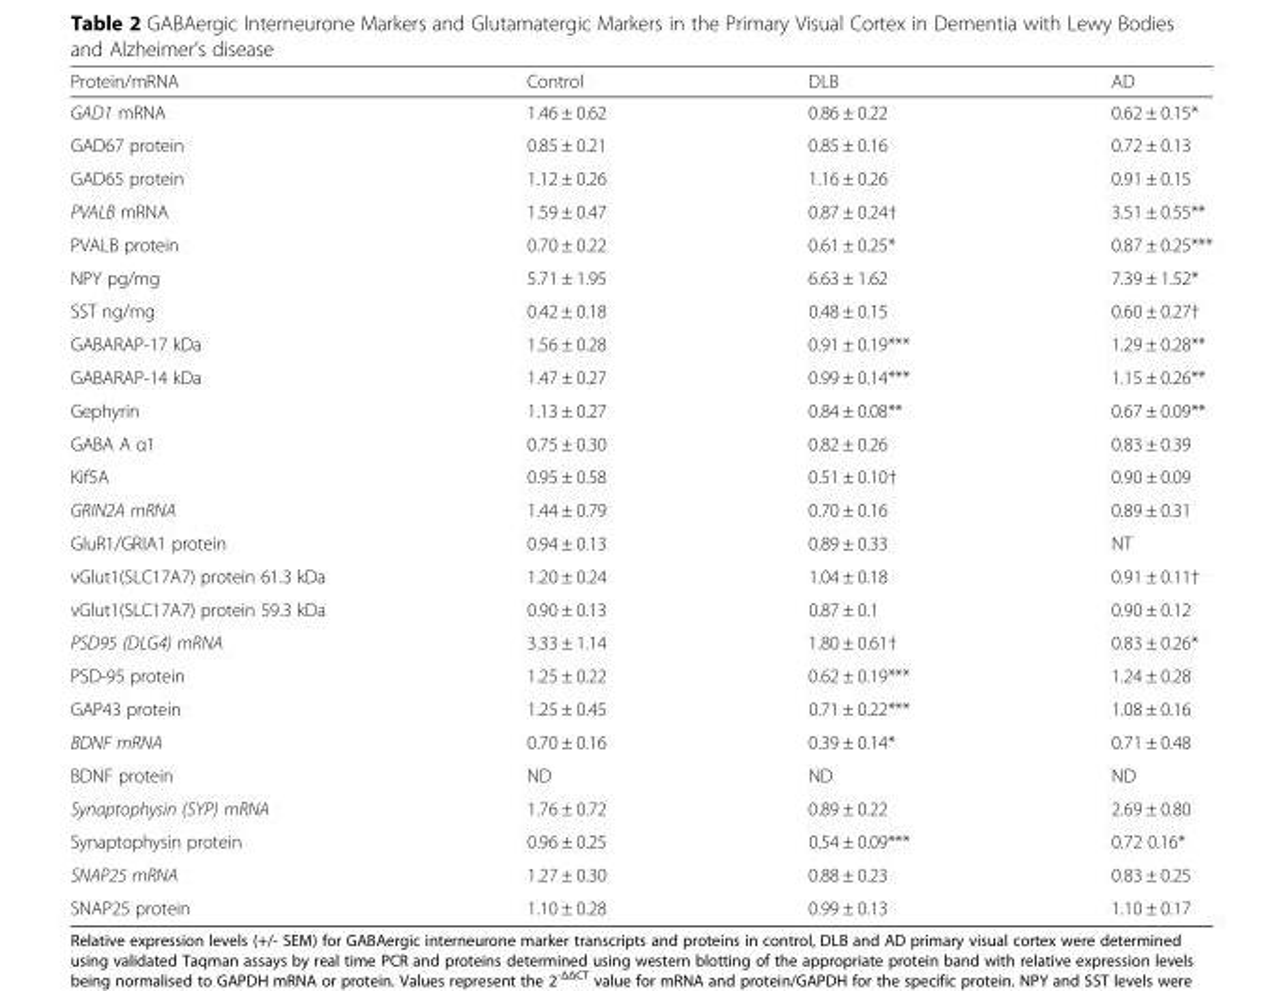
<table><thead><tr><td>Protein/mRNA</td><td>Control</td><td>DLB</td><td>AD</td></tr></thead><tbody><tr><td>GAD1 mRNA</td><td>1.46 ± 0.62</td><td>0.86 ± 0.22</td><td>0.62 ± 0.15*</td></tr><tr><td>GAD67 protein</td><td>0.85 ± 0.21</td><td>0.85 ± 0.16</td><td>0.72 ± 0.13</td></tr><tr><td>GAD65 protein</td><td>1.12 ± 0.26</td><td>1.16 ± 0.26</td><td>0.91 ± 0.15</td></tr><tr><td>PVALB mRNA</td><td>1.59 ± 0.47</td><td>0.87 ± 0.24†</td><td>3.51 ± 0.55**</td></tr><tr><td>PVALB protein</td><td>0.70 ± 0.22</td><td>0.61 ± 0.25*</td><td>0.87 ± 0.25***</td></tr><tr><td>NPY pg/mg</td><td>5.71 ± 1.95</td><td>6.63 ± 1.62</td><td>7.39 ± 1.52*</td></tr><tr><td>SST ng/mg</td><td>0.42 ± 0.18</td><td>0.48 ± 0.15</td><td>0.60 ± 0.27†</td></tr><tr><td>GABARAP-17 kDa</td><td>1.56 ± 0.28</td><td>0.91 ± 0.19***</td><td>1.29 ± 0.28**</td></tr><tr><td>GABARAP-14 kDa</td><td>1.47 ± 0.27</td><td>0.99 ± 0.14***</td><td>1.15 ± 0.26**</td></tr><tr><td>Gephyrin</td><td>1.13 ± 0.27</td><td>0.84 ± 0.08**</td><td>0.67 ± 0.09**</td></tr><tr><td>GABA A α1</td><td>0.75 ± 0.30</td><td>0.82 ± 0.26</td><td>0.83 ± 0.39</td></tr><tr><td>Kif5A</td><td>0.95 ± 0.58</td><td>0.51 ± 0.10†</td><td>0.90 ± 0.09</td></tr><tr><td>GRIN2A mRNA</td><td>1.44 ± 0.79</td><td>0.70 ± 0.16</td><td>0.89 ± 0.31</td></tr><tr><td>GluR1/GRIA1 protein</td><td>0.94 ± 0.13</td><td>0.89 ± 0.33</td><td>NT</td></tr><tr><td>vGlut1(SLC17A7) protein 61.3 kDa</td><td>1.20 ± 0.24</td><td>1.04 ± 0.18</td><td>0.91 ± 0.11†</td></tr><tr><td>vGlut1(SLC17A7) protein 59.3 kDa</td><td>0.90 ± 0.13</td><td>0.87 ± 0.1</td><td>0.90 ± 0.12</td></tr><tr><td>PSD95 (DLG4) mRNA</td><td>3.33 ± 1.14</td><td>1.80 ± 0.61†</td><td>0.83 ± 0.26*</td></tr><tr><td>PSD-95 protein</td><td>1.25 ± 0.22</td><td>0.62 ± 0.19***</td><td>1.24 ± 0.28</td></tr><tr><td>GAP43 protein</td><td>1.25 ± 0.45</td><td>0.71 ± 0.22***</td><td>1.08 ± 0.16</td></tr><tr><td>BDNF mRNA</td><td>0.70 ± 0.16</td><td>0.39 ± 0.14*</td><td>0.71 ± 0.48</td></tr><tr><td>BDNF protein</td><td>ND</td><td>ND</td><td>ND</td></tr><tr><td>Synaptophysin (SYP) mRNA</td><td>1.76 ± 0.72</td><td>0.89 ± 0.22</td><td>2.69 ± 0.80</td></tr><tr><td>Synaptophysin protein</td><td>0.96 ± 0.25</td><td>0.54 ± 0.09***</td><td>0.72 0.16*</td></tr><tr><td>SNAP25 mRNA</td><td>1.27 ± 0.30</td><td>0.88 ± 0.23</td><td>0.83 ± 0.25</td></tr><tr><td>SNAP25 protein</td><td>1.10 ± 0.28</td><td>0.99 ± 0.13</td><td>1.10 ± 0.17</td></tr></tbody></table>